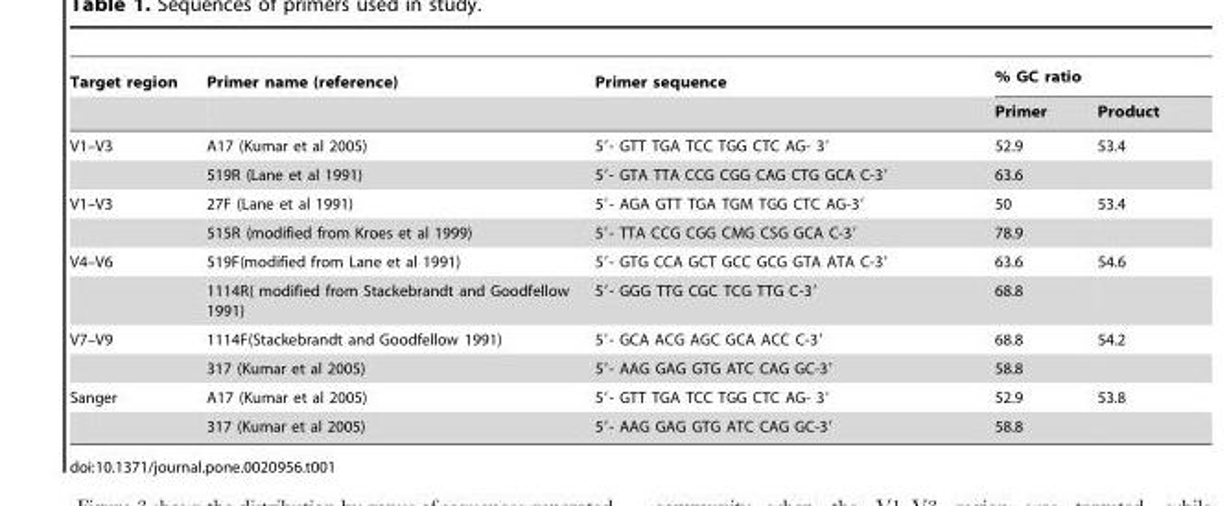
<table><thead><tr><td rowspan="2">Target region</td><td rowspan="2">Primer name (reference)</td><td rowspan="2">Primer sequence</td><td colspan="2">% GC ratio</td></tr><tr><td>Primer</td><td>Product</td></tr></thead><tbody><tr><td rowspan="2">V1–V3</td><td>A17 (Kumar et al 2005)</td><td>5′- GTT TGA TCC TGG CTC AG- 3′</td><td>52.9</td><td>53.4</td></tr><tr><td>519R (Lane et al 1991)</td><td>5′- GTA TTA CCG CGG CAG CTG GCA C-3′</td><td>63.6</td><td></td></tr><tr><td rowspan="2">V1–V3</td><td>27F (Lane et al 1991)</td><td>5′- AGA GTT TGA TGM TGG CTC AG-3′</td><td>50</td><td>53.4</td></tr><tr><td>515R (modified from Kroes et al 1999)</td><td>5′- TTA CCG CGG CMG CSG GCA C-3′</td><td>78.9</td><td></td></tr><tr><td rowspan="2">V4–V6</td><td>519F(modified from Lane et al 1991)</td><td>5′- GTG CCA GCT GCC GCG GTA ATA C-3′</td><td>63.6</td><td>54.6</td></tr><tr><td>1114R( modified from Stackebrandt and Goodfellow 1991)</td><td>5′- GGG TTG CGC TCG TTG C-3′</td><td>68.8</td><td></td></tr><tr><td rowspan="2">V7–V9</td><td>1114F(Stackebrandt and Goodfellow 1991)</td><td>5′- GCA ACG AGC GCA ACC C-3′</td><td>68.8</td><td>54.2</td></tr><tr><td>317 (Kumar et al 2005)</td><td>5′- AAG GAG GTG ATC CAG GC-3′</td><td>58.8</td><td></td></tr><tr><td rowspan="2">Sanger</td><td>A17 (Kumar et al 2005)</td><td>5′- GTT TGA TCC TGG CTC AG- 3′</td><td>52.9</td><td>53.8</td></tr><tr><td>317 (Kumar et al 2005)</td><td>5′- AAG GAG GTG ATC CAG GC-3′</td><td>58.8</td><td></td></tr></tbody></table>